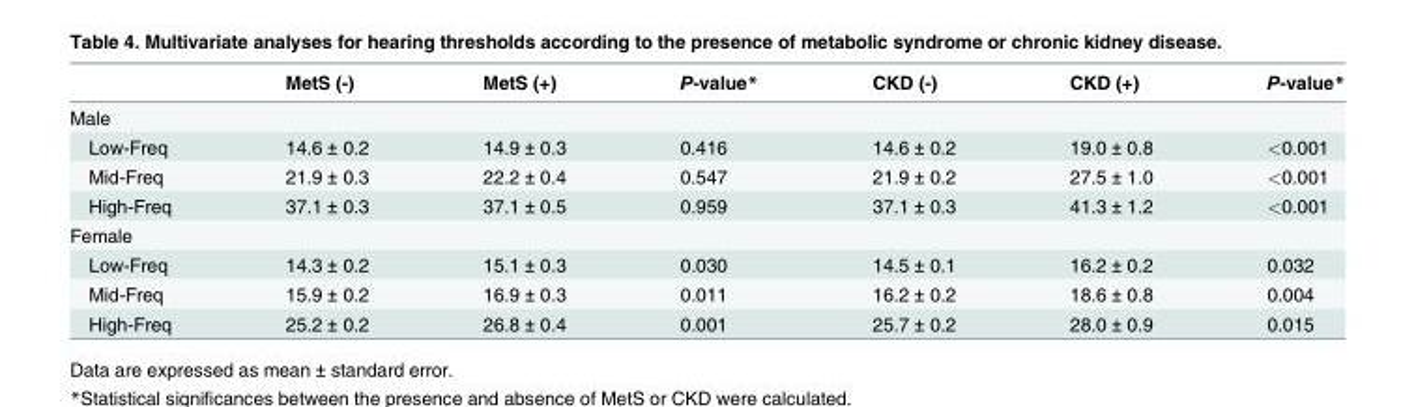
<table><thead><tr><td></td><td>MetS (-)</td><td>MetS (+)</td><td>P-value*</td><td>CKD (-)</td><td>CKD (+)</td><td>P-value*</td></tr></thead><tbody><tr><td colspan="7">Male</td></tr><tr><td>Low-Freq</td><td>14.6 ± 0.2</td><td>14.9 ± 0.3</td><td>0.416</td><td>14.6 ± 0.2</td><td>19.0 ± 0.8</td><td>&lt;0.001</td></tr><tr><td>Mid-Freq</td><td>21.9 ± 0.3</td><td>22.2 ± 0.4</td><td>0.547</td><td>21.9 ± 0.2</td><td>27.5 ± 1.0</td><td>&lt;0.001</td></tr><tr><td>High-Freq</td><td>37.1 ± 0.3</td><td>37.1 ± 0.5</td><td>0.959</td><td>37.1 ± 0.3</td><td>41.3 ± 1.2</td><td>&lt;0.001</td></tr><tr><td colspan="7">Female</td></tr><tr><td>Low-Freq</td><td>14.3 ± 0.2</td><td>15.1 ± 0.3</td><td>0.030</td><td>14.5 ± 0.1</td><td>16.2 ± 0.2</td><td>0.032</td></tr><tr><td>Mid-Freq</td><td>15.9 ± 0.2</td><td>16.9 ± 0.3</td><td>0.011</td><td>16.2 ± 0.2</td><td>18.6 ± 0.8</td><td>0.004</td></tr><tr><td>High-Freq</td><td>25.2 ± 0.2</td><td>26.8 ± 0.4</td><td>0.001</td><td>25.7 ± 0.2</td><td>28.0 ± 0.9</td><td>0.015</td></tr></tbody></table>